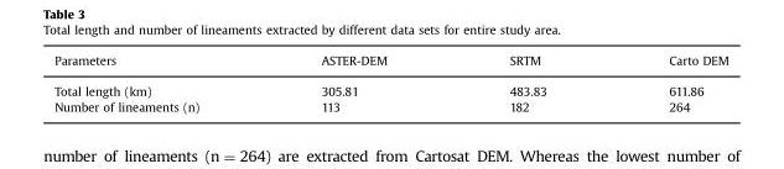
<table><thead><tr><td>Parameters</td><td>ASTER-DEM</td><td>SRTM</td><td>Carto DEM</td></tr></thead><tbody><tr><td>Total length (km)</td><td>305.81</td><td>483.83</td><td>611.86</td></tr><tr><td>Number of lineaments (n)</td><td>113</td><td>182</td><td>264</td></tr></tbody></table>